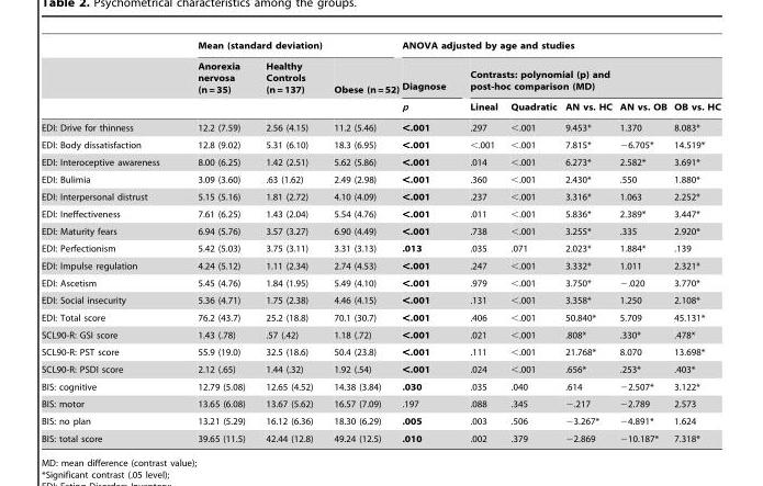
<table><thead><tr><td rowspan="3"></td><td colspan="3">Mean (standard deviation)</td><td colspan="6">ANOVA adjusted by age and studies</td></tr><tr><td rowspan="2">Anorexia nervosa (n = 35)</td><td rowspan="2">Healthy Controls (n = 137)</td><td rowspan="2">Obese (n = 52)</td><td rowspan="2">Diagnose p</td><td colspan="5">Contrasts: polynomial (p) and post-hoc comparison (MD)</td></tr><tr><td>Lineal</td><td>Quadratic</td><td>AN vs. HC</td><td>AN vs. OB</td><td>OB vs. HC</td></tr></thead><tbody><tr><td>EDI: Drive for thinness</td><td>12.2 (7.59)</td><td>2.56 (4.15)</td><td>11.2 (5.46)</td><td>&lt;.001</td><td>.297</td><td>&lt;.001</td><td>9.453*</td><td>1.370</td><td>8.083*</td></tr><tr><td>EDI: Body dissatisfaction</td><td>12.8 (9.02)</td><td>5.31 (6.10)</td><td>18.3 (6.95)</td><td>&lt;.001</td><td>&lt;.001</td><td>&lt;.001</td><td>7.815*</td><td>−6.705*</td><td>14.519*</td></tr><tr><td>EDI: Interoceptive awareness</td><td>8.00 (6.25)</td><td>1.42 (2.51)</td><td>5.62 (5.86)</td><td>&lt;.001</td><td>.014</td><td>&lt;.001</td><td>6.273*</td><td>2.582*</td><td>3.691*</td></tr><tr><td>EDI: Bulimia</td><td>3.09 (3.60)</td><td>.63 (1.62)</td><td>2.49 (2.98)</td><td>&lt;.001</td><td>.360</td><td>&lt;.001</td><td>2.430*</td><td>.550</td><td>1.880*</td></tr><tr><td>EDI: Interpersonal distrust</td><td>5.15 (5.16)</td><td>1.81 (2.72)</td><td>4.10 (4.09)</td><td>&lt;.001</td><td>.237</td><td>&lt;.001</td><td>3.316*</td><td>1.063</td><td>2.252*</td></tr><tr><td>EDI: Ineffectiveness</td><td>7.61 (6.25)</td><td>1.43 (2.04)</td><td>5.54 (4.76)</td><td>&lt;.001</td><td>.011</td><td>&lt;.001</td><td>5.836*</td><td>2.389*</td><td>3.447*</td></tr><tr><td>EDI: Maturity fears</td><td>6.94 (5.76)</td><td>3.57 (3.27)</td><td>6.90 (4.49)</td><td>&lt;.001</td><td>.738</td><td>&lt;.001</td><td>3.255*</td><td>.335</td><td>2.920*</td></tr><tr><td>EDI: Perfectionism</td><td>5.42 (5.03)</td><td>3.75 (3.11)</td><td>3.31 (3.13)</td><td>.013</td><td>.035</td><td>.071</td><td>2.023*</td><td>1.884*</td><td>.139</td></tr><tr><td>EDI: Impulse regulation</td><td>4.24 (5.12)</td><td>1.11 (2.34)</td><td>2.74 (4.53)</td><td>&lt;.001</td><td>.247</td><td>&lt;.001</td><td>3.332*</td><td>1.011</td><td>2.321*</td></tr><tr><td>EDI: Ascetism</td><td>5.45 (4.76)</td><td>1.84 (1.95)</td><td>5.49 (4.10)</td><td>&lt;.001</td><td>.979</td><td>&lt;.001</td><td>3.750*</td><td>−.020</td><td>3.770*</td></tr><tr><td>EDI: Social insecurity</td><td>5.36 (4.71)</td><td>1.75 (2.38)</td><td>4.46 (4.15)</td><td>&lt;.001</td><td>.131</td><td>&lt;.001</td><td>3.358*</td><td>1.250</td><td>2.108*</td></tr><tr><td>EDI: Total score</td><td>76.2 (43.7)</td><td>25.2 (18.8)</td><td>70.1 (30.7)</td><td>&lt;.001</td><td>.406</td><td>&lt;.001</td><td>50.840*</td><td>5.709</td><td>45.131*</td></tr><tr><td>SCL90-R: GSI score</td><td>1.43 (.78)</td><td>.57 (.42)</td><td>1.18 (.72)</td><td>&lt;.001</td><td>.021</td><td>&lt;.001</td><td>.808*</td><td>.330*</td><td>.478*</td></tr><tr><td>SCL90-R: PST score</td><td>55.9 (19.0)</td><td>32.5 (18.6)</td><td>50.4 (23.8)</td><td>&lt;.001</td><td>.111</td><td>&lt;.001</td><td>21.768*</td><td>8.070</td><td>13.698*</td></tr><tr><td>SCL90-R: PSDI score</td><td>2.12 (.65)</td><td>1.44 (.32)</td><td>1.92 (.54)</td><td>&lt;.001</td><td>.024</td><td>&lt;.001</td><td>.656*</td><td>.253*</td><td>.403*</td></tr><tr><td>BIS: cognitive</td><td>12.79 (5.08)</td><td>12.65 (4.52)</td><td>14.38 (3.84)</td><td>.030</td><td>.035</td><td>.040</td><td>.614</td><td>−2.507*</td><td>3.122*</td></tr><tr><td>BIS: motor</td><td>13.65 (6.08)</td><td>13.67 (5.62)</td><td>16.57 (7.09)</td><td>.197</td><td>.088</td><td>.345</td><td>−.217</td><td>−2.789</td><td>2.573</td></tr><tr><td>BIS: no plan</td><td>13.21 (5.29)</td><td>16.12 (6.36)</td><td>18.30 (6.29)</td><td>.005</td><td>.003</td><td>.506</td><td>−3.267*</td><td>−4.891*</td><td>1.624</td></tr><tr><td>BIS: total score</td><td>39.65 (11.5)</td><td>42.44 (12.8)</td><td>49.24 (12.5)</td><td>.010</td><td>.002</td><td>.379</td><td>−2.869</td><td>−10.187*</td><td>7.318*</td></tr></tbody></table>